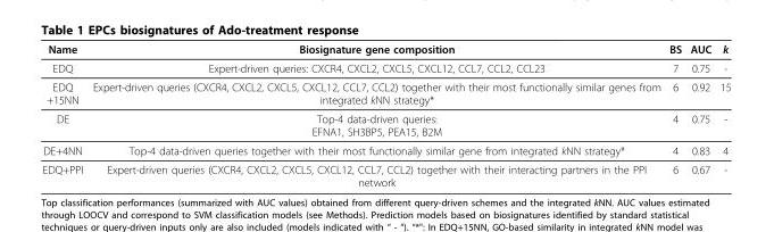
<table><thead><tr><td>Name</td><td>Biosignature gene composition</td><td>BS</td><td>AUC</td><td>k</td></tr></thead><tbody><tr><td>EDQ</td><td>Expert-driven queries: CXCR4, CXCL2, CXCL5, CXCL12, CCL7, CCL2, CCL23</td><td>7</td><td>0.75</td><td>-</td></tr><tr><td>EDQ +15NN</td><td>Expert-driven queries (CXCR4, CXCL2, CXCL5, CXCL12, CCL7, CCL2) together with their most functionally similar genes from integrated kNN strategy*</td><td>6</td><td>0.92</td><td>15</td></tr><tr><td>DE</td><td>Top-4 data-driven queries: EFNA1, SH3BP5, PEA15, B2M</td><td>4</td><td>0.75</td><td>-</td></tr><tr><td>DE+4NN</td><td>Top-4 data-driven queries together with their most functionally similar gene from integrated kNN strategy*</td><td>4</td><td>0.83</td><td>4</td></tr><tr><td>EDQ+PPI</td><td>Expert-driven queries (CXCR4, CXCL2, CXCL5, CXCL12, CCL7, CCL2) together with their interacting partners in the PPI network</td><td>6</td><td>0.67</td><td>-</td></tr></tbody></table>